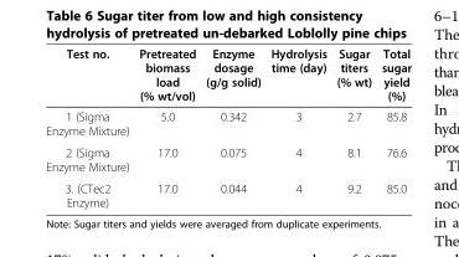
<table><thead><tr><td>Test no.</td><td>Pretreated biomass load (% wt/vol)</td><td>Enzyme dosage (g/g solid)</td><td>Hydrolysis time (day)</td><td>Sugar titers (% wt)</td><td>Total sugar yield (%)</td></tr></thead><tbody><tr><td>1 (Sigma Enzyme Mixture)</td><td>5.0</td><td>0.342</td><td>3</td><td>2.7</td><td>85.8</td></tr><tr><td>2 (Sigma Enzyme Mixture)</td><td>17.0</td><td>0.075</td><td>4</td><td>8.1</td><td>76.6</td></tr><tr><td>3. (CTec2 Enzyme)</td><td>17.0</td><td>0.044</td><td>4</td><td>9.2</td><td>85.0</td></tr></tbody></table>